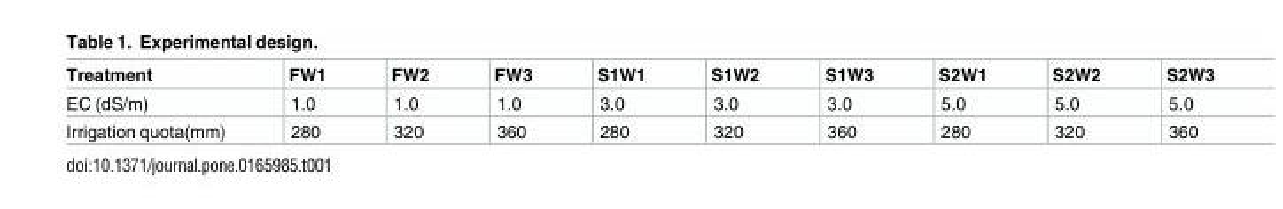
<table><thead><tr><td>Treatment</td><td>FW1</td><td>FW2</td><td>FW3</td><td>S1W1</td><td>S1W2</td><td>S1W3</td><td>S2W1</td><td>S2W2</td><td>S2W3</td></tr></thead><tbody><tr><td>EC (dS/m)</td><td>1.0</td><td>1.0</td><td>1.0</td><td>3.0</td><td>3.0</td><td>3.0</td><td>5.0</td><td>5.0</td><td>5.0</td></tr><tr><td>Irrigation quota(mm)</td><td>280</td><td>320</td><td>360</td><td>280</td><td>320</td><td>360</td><td>280</td><td>320</td><td>360</td></tr></tbody></table>